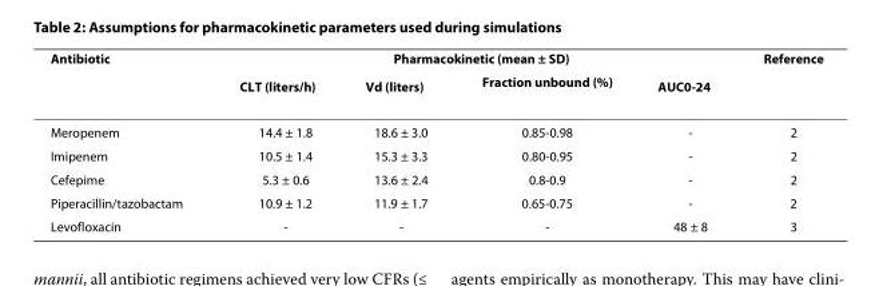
<table><thead><tr><td rowspan="2">Antibiotic</td><td colspan="4">Pharmacokinetic (mean ± SD)</td><td rowspan="2">Reference</td></tr><tr><td>CL<sub>T</sub> (liters/h)</td><td>V<sub>d</sub> (liters)</td><td>Fraction unbound (%)</td><td>AUC<sub>0-24</sub></td></tr></thead><tbody><tr><td>Meropenem</td><td>14.4 ± 1.8</td><td>18.6 ± 3.0</td><td>0.85-0.98</td><td>-</td><td>2</td></tr><tr><td>Imipenem</td><td>10.5 ± 1.4</td><td>15.3 ± 3.3</td><td>0.80-0.95</td><td>-</td><td>2</td></tr><tr><td>Cefepime</td><td>5.3 ± 0.6</td><td>13.6 ± 2.4</td><td>0.8-0.9</td><td>-</td><td>2</td></tr><tr><td>Piperacillin/tazobactam</td><td>10.9 ± 1.2</td><td>11.9 ± 1.7</td><td>0.65-0.75</td><td>-</td><td>2</td></tr><tr><td>Levofloxacin</td><td>-</td><td>-</td><td>-</td><td>48 ± 8</td><td>3</td></tr></tbody></table>